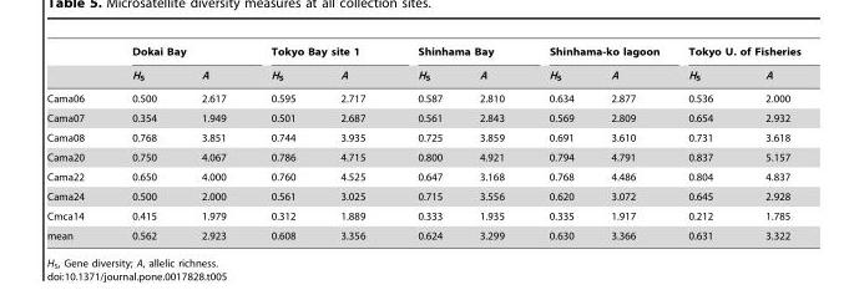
<table><thead><tr><td rowspan="2"></td><td colspan="2">Dokai Bay</td><td colspan="2">Tokyo Bay site 1</td><td colspan="2">Shinhama Bay</td><td colspan="2">Shinhama-ko lagoon</td><td colspan="2">Tokyo U. of Fisheries</td></tr><tr><td>H<sub>S</sub></td><td>A</td><td>H<sub>S</sub></td><td>A</td><td>H<sub>S</sub></td><td>A</td><td>H<sub>S</sub></td><td>A</td><td>H<sub>S</sub></td><td>A</td></tr></thead><tbody><tr><td>Cama06</td><td>0.500</td><td>2.617</td><td>0.595</td><td>2.717</td><td>0.587</td><td>2.810</td><td>0.634</td><td>2.877</td><td>0.536</td><td>2.000</td></tr><tr><td>Cama07</td><td>0.354</td><td>1.949</td><td>0.501</td><td>2.687</td><td>0.561</td><td>2.843</td><td>0.569</td><td>2.809</td><td>0.654</td><td>2.932</td></tr><tr><td>Cama08</td><td>0.768</td><td>3.851</td><td>0.744</td><td>3.935</td><td>0.725</td><td>3.859</td><td>0.691</td><td>3.610</td><td>0.731</td><td>3.618</td></tr><tr><td>Cama20</td><td>0.750</td><td>4.067</td><td>0.786</td><td>4.715</td><td>0.800</td><td>4.921</td><td>0.794</td><td>4.791</td><td>0.837</td><td>5.157</td></tr><tr><td>Cama22</td><td>0.650</td><td>4.000</td><td>0.760</td><td>4.525</td><td>0.647</td><td>3.168</td><td>0.768</td><td>4.486</td><td>0.804</td><td>4.837</td></tr><tr><td>Cama24</td><td>0.500</td><td>2.000</td><td>0.561</td><td>3.025</td><td>0.715</td><td>3.556</td><td>0.620</td><td>3.072</td><td>0.645</td><td>2.928</td></tr><tr><td>Cmca14</td><td>0.415</td><td>1.979</td><td>0.312</td><td>1.889</td><td>0.333</td><td>1.935</td><td>0.335</td><td>1.917</td><td>0.212</td><td>1.785</td></tr><tr><td>mean</td><td>0.562</td><td>2.923</td><td>0.608</td><td>3.356</td><td>0.624</td><td>3.299</td><td>0.630</td><td>3.366</td><td>0.631</td><td>3.322</td></tr></tbody></table>